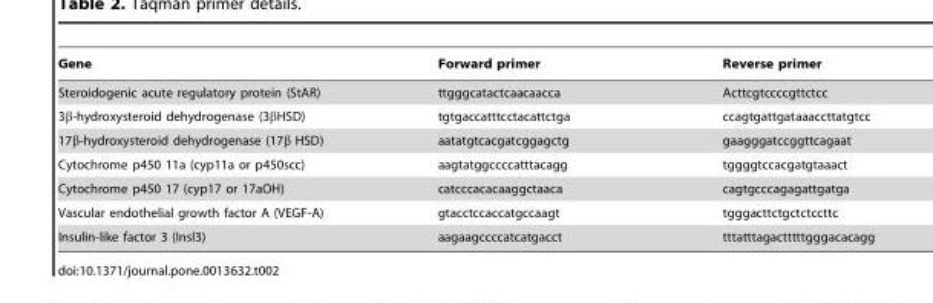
<table><thead><tr><td>Gene</td><td>Forward primer</td><td>Reverse primer</td></tr></thead><tbody><tr><td>Steroidogenic acute regulatory protein (StAR)</td><td>ttgggcatactcaacaacca</td><td>Acttcgtccccgttctcc</td></tr><tr><td>3β-hydroxysteroid dehydrogenase (3βHSD)</td><td>tgtgaccatttcctacattctga</td><td>ccagtgattgataaaccttatgtcc</td></tr><tr><td>17β-hydroxysteroid dehydrogenase (17β HSD)</td><td>aatatgtcacgatcggagctg</td><td>gaagggatccggttcagaat</td></tr><tr><td>Cytochrome p450 11a (cyp11a or p450scc)</td><td>aagtatggccccatttacagg</td><td>tggggtccacgatgtaaact</td></tr><tr><td>Cytochrome p450 17 (cyp17 or 17aOH)</td><td>catcccacacaaggctaaca</td><td>cagtgcccagagattgatga</td></tr><tr><td>Vascular endothelial growth factor A (VEGF-A)</td><td>gtacctccaccatgccaagt</td><td>tgggacttctgctctccttc</td></tr><tr><td>Insulin-like factor 3 (Insl3)</td><td>aagaagccccatcatgacct</td><td>tttatttagactttttgggacacagg</td></tr></tbody></table>